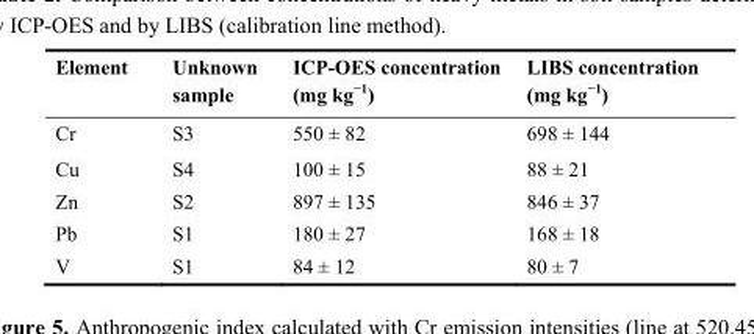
<table><thead><tr><td>Element</td><td>Unknown sample</td><td>ICP-OES concentration (mg kg<sup>−1</sup>)</td><td>LIBS concentration (mg kg<sup>−1</sup>)</td></tr></thead><tbody><tr><td>Cr</td><td>S3</td><td>550 ± 82</td><td>698 ± 144</td></tr><tr><td>Cu</td><td>S4</td><td>100 ± 15</td><td>88 ± 21</td></tr><tr><td>Zn</td><td>S2</td><td>897 ± 135</td><td>846 ± 37</td></tr><tr><td>Pb</td><td>S1</td><td>180 ± 27</td><td>168 ± 18</td></tr><tr><td>V</td><td>S1</td><td>84 ± 12</td><td>80 ± 7</td></tr></tbody></table>